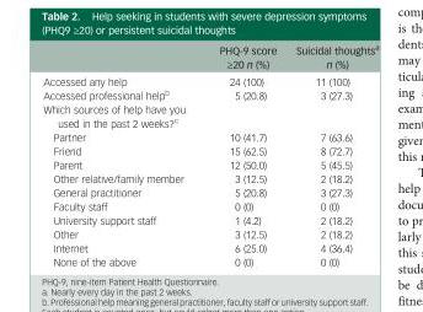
<table><thead><tr><td></td><td>PHQ-9 score ≥20 n (%)</td><td>Suicidal thoughts<sup>a</sup> n (%)</td></tr></thead><tbody><tr><td>Accessed any help</td><td>24 (100)</td><td>11 (100)</td></tr><tr><td>Accessed professional help<sup>b</sup></td><td>5 (20.8)</td><td>3 (27.3)</td></tr><tr><td colspan="3">Which sources of help have you used in the past 2 weeks?<sup>c</sup></td></tr><tr><td>Partner</td><td>10 (41.7)</td><td>7 (63.6)</td></tr><tr><td>Friend</td><td>15 (62.5)</td><td>8 (72.7)</td></tr><tr><td>Parent</td><td>12 (50.0)</td><td>5 (45.5)</td></tr><tr><td>Other relative/family member</td><td>3 (12.5)</td><td>2 (18.2)</td></tr><tr><td>General practitioner</td><td>5 (20.8)</td><td>3 (27.3)</td></tr><tr><td>Faculty staff</td><td>0 (0)</td><td>0 (0)</td></tr><tr><td>University support staff</td><td>1 (4.2)</td><td>2 (18.2)</td></tr><tr><td>Other</td><td>3 (12.5)</td><td>2 (18.2)</td></tr><tr><td>Internet</td><td>6 (25.0)</td><td>4 (36.4)</td></tr><tr><td>None of the above</td><td>0 (0)</td><td>0 (0)</td></tr></tbody></table>